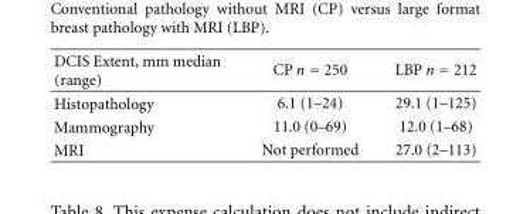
<table><thead><tr><td>DCIS Extent, mm median (range)</td><td>CP n = 250</td><td>LBP n = 212</td></tr></thead><tbody><tr><td>Histopathology</td><td>6.1 (1–24)</td><td>29.1 (1–125)</td></tr><tr><td>Mammography</td><td>11.0 (0–69)</td><td>12.0 (1–68)</td></tr><tr><td>MRI</td><td>Not performed</td><td>27.0 (2–113)</td></tr></tbody></table>